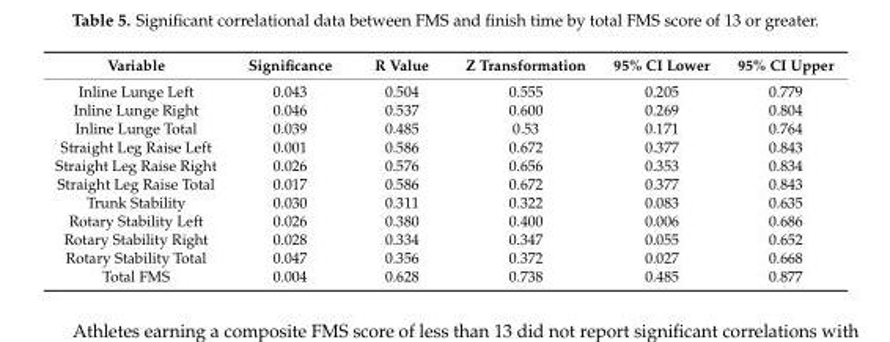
<table><thead><tr><td>Variable</td><td>Significance</td><td>R Value</td><td>Z Transformation</td><td>95% CI Lower</td><td>95% CI Upper</td></tr></thead><tbody><tr><td>Inline Lunge Left</td><td>0.043</td><td>0.504</td><td>0.555</td><td>0.205</td><td>0.779</td></tr><tr><td>Inline Lunge Right</td><td>0.046</td><td>0.537</td><td>0.600</td><td>0.269</td><td>0.804</td></tr><tr><td>Inline Lunge Total</td><td>0.039</td><td>0.485</td><td>0.53</td><td>0.171</td><td>0.764</td></tr><tr><td>Straight Leg Raise Left</td><td>0.001</td><td>0.586</td><td>0.672</td><td>0.377</td><td>0.843</td></tr><tr><td>Straight Leg Raise Right</td><td>0.026</td><td>0.576</td><td>0.656</td><td>0.353</td><td>0.834</td></tr><tr><td>Straight Leg Raise Total</td><td>0.017</td><td>0.586</td><td>0.672</td><td>0.377</td><td>0.843</td></tr><tr><td>Trunk Stability</td><td>0.030</td><td>0.311</td><td>0.322</td><td>0.083</td><td>0.635</td></tr><tr><td>Rotary Stability Left</td><td>0.026</td><td>0.380</td><td>0.400</td><td>0.006</td><td>0.686</td></tr><tr><td>Rotary Stability Right</td><td>0.028</td><td>0.334</td><td>0.347</td><td>0.055</td><td>0.652</td></tr><tr><td>Rotary Stability Total</td><td>0.047</td><td>0.356</td><td>0.372</td><td>0.027</td><td>0.668</td></tr><tr><td>Total FMS</td><td>0.004</td><td>0.628</td><td>0.738</td><td>0.485</td><td>0.877</td></tr></tbody></table>